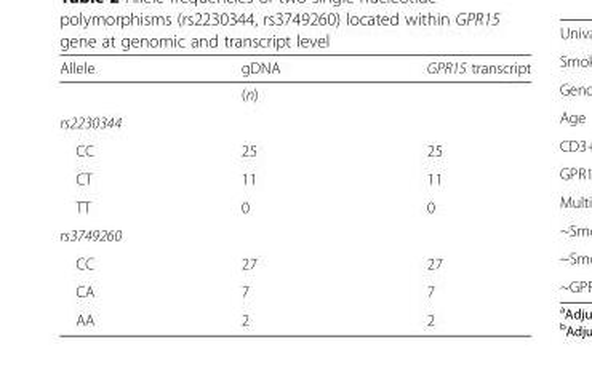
<table><thead><tr><td>Allele</td><td>gDNA</td><td>GPR15 transcript</td></tr></thead><tbody><tr><td></td><td colspan="2">(n)</td></tr><tr><td colspan="3">rs2230344</td></tr><tr><td>CC</td><td>25</td><td>25</td></tr><tr><td>CT</td><td>11</td><td>11</td></tr><tr><td>TT</td><td>0</td><td>0</td></tr><tr><td colspan="3">rs3749260</td></tr><tr><td>CC</td><td>27</td><td>27</td></tr><tr><td>CA</td><td>7</td><td>7</td></tr><tr><td>AA</td><td>2</td><td>2</td></tr></tbody></table>